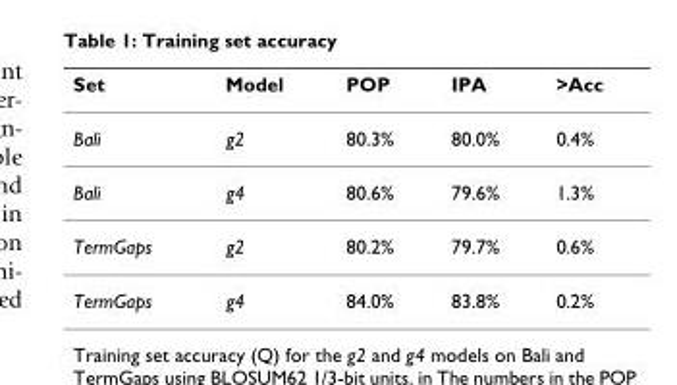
<table><thead><tr><td>Set</td><td>Model</td><td>POP</td><td>IPA</td><td>&gt;Acc</td></tr></thead><tbody><tr><td>Bali</td><td>g2</td><td>80.3%</td><td>80.0%</td><td>0.4%</td></tr><tr><td>Bali</td><td>g4</td><td>80.6%</td><td>79.6%</td><td>1.3%</td></tr><tr><td>TermGaps</td><td>g2</td><td>80.2%</td><td>79.7%</td><td>0.6%</td></tr><tr><td>TermGaps</td><td>g4</td><td>84.0%</td><td>83.8%</td><td>0.2%</td></tr></tbody></table>